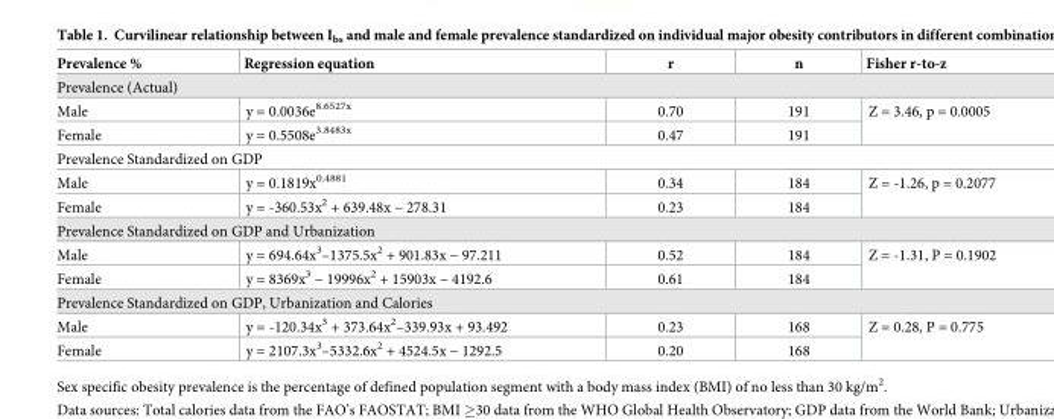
<table><thead><tr><td>Prevalence %</td><td>Regression equation</td><td>r</td><td>n</td><td>Fisher r-to-z</td></tr></thead><tbody><tr><td colspan="5">Prevalence (Actual)</td></tr><tr><td>Male</td><td>y = 0.0036e<sup>8.6527x</sup></td><td>0.70</td><td>191</td><td rowspan="2">Z = 3.46, p = 0.0005</td></tr><tr><td>Female</td><td>y = 0.5508e<sup>3.8483x</sup></td><td>0.47</td><td>191</td></tr><tr><td colspan="5">Prevalence Standardized on GDP</td></tr><tr><td>Male</td><td>y = 0.1819x<sup>0.4881</sup></td><td>0.34</td><td>184</td><td rowspan="2">Z = -1.26, p = 0.2077</td></tr><tr><td>Female</td><td>y = -360.53x<sup>2</sup> + 639.48x − 278.31</td><td>0.23</td><td>184</td></tr><tr><td colspan="5">Prevalence Standardized on GDP and Urbanization</td></tr><tr><td>Male</td><td>y = 694.64x<sup>3</sup>–1375.5x<sup>2</sup> + 901.83x − 97.211</td><td>0.52</td><td>184</td><td rowspan="2">Z = -1.31, P = 0.1902</td></tr><tr><td>Female</td><td>y = 8369x<sup>3</sup> − 19996x<sup>2</sup> + 15903x − 4192.6</td><td>0.61</td><td>184</td></tr><tr><td colspan="5">Prevalence Standardized on GDP, Urbanization and Calories</td></tr><tr><td>Male</td><td>y = -120.34x<sup>3</sup> + 373.64x<sup>2</sup>–339.93x + 93.492</td><td>0.23</td><td>168</td><td rowspan="2">Z = 0.28, P = 0.775</td></tr><tr><td>Female</td><td>y = 2107.3x<sup>3</sup>–5332.6x<sup>2</sup> + 4524.5x − 1292.5</td><td>0.20</td><td>168</td></tr></tbody></table>